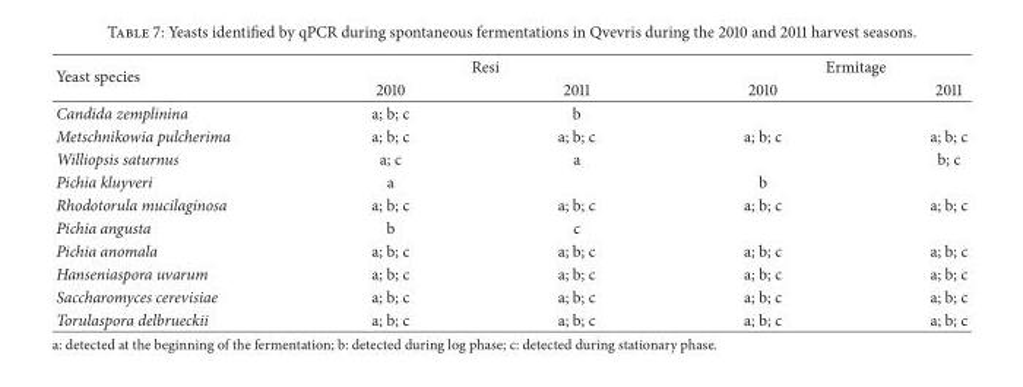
<table><thead><tr><td rowspan="2">Yeast species</td><td colspan="2">Resi</td><td colspan="2">Ermitage</td></tr><tr><td>2010</td><td>2011</td><td>2010</td><td>2011</td></tr></thead><tbody><tr><td>Candida zemplinina</td><td>a; b; c</td><td>b</td><td></td><td></td></tr><tr><td>Metschnikowia pulcherima</td><td>a; b; c</td><td>a; b; c</td><td>a; b; c</td><td>a; b; c</td></tr><tr><td>Williopsis saturnus</td><td>a; c</td><td>a</td><td></td><td>b; c</td></tr><tr><td>Pichia kluyveri</td><td>a</td><td></td><td>b</td><td></td></tr><tr><td>Rhodotorula mucilaginosa</td><td>a; b; c</td><td>a; b; c</td><td>a; b; c</td><td>a; b; c</td></tr><tr><td>Pichia angusta</td><td>b</td><td>c</td><td></td><td></td></tr><tr><td>Pichia anomala</td><td>a; b; c</td><td>a; b; c</td><td>a; b; c</td><td>a; b; c</td></tr><tr><td>Hanseniaspora uvarum</td><td>a; b; c</td><td>a; b; c</td><td>a; b; c</td><td>a; b; c</td></tr><tr><td>Saccharomyces cerevisiae</td><td>a; b; c</td><td>a; b; c</td><td>a; b; c</td><td>a; b; c</td></tr><tr><td>Torulaspora delbrueckii</td><td>a; b; c</td><td>a; b; c</td><td>a; b; c</td><td>a; b; c</td></tr></tbody></table>